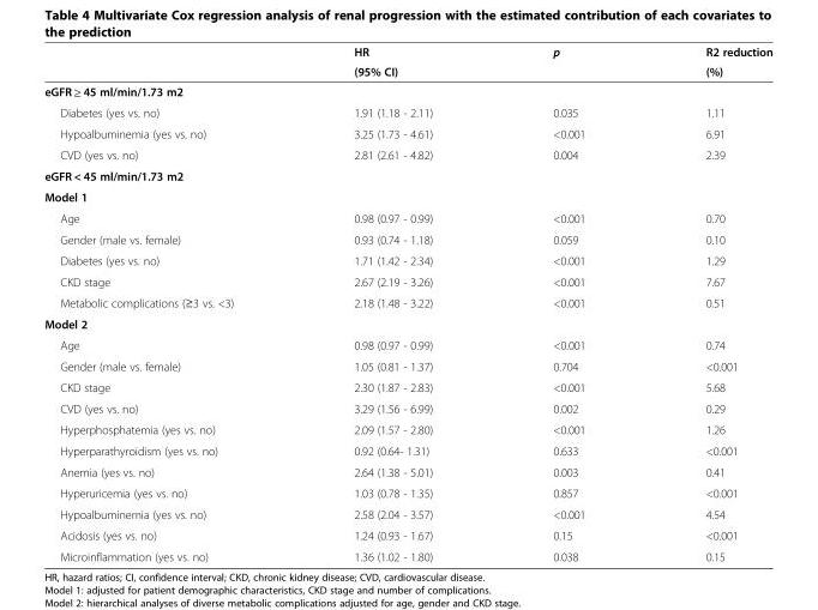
<table><thead><tr><td rowspan="2"></td><td rowspan="2">HR (95% CI)</td><td rowspan="2">p</td><td rowspan="2">R2 reduction (%)</td></tr><tr></tr></thead><tbody><tr><td colspan="4">eGFR ≥ 45 ml/min/1.73 m2</td></tr><tr><td>Diabetes (yes vs. no)</td><td>1.91 (1.18 - 2.11)</td><td>0.035</td><td>1.11</td></tr><tr><td>Hypoalbuminemia (yes vs. no)</td><td>3.25 (1.73 - 4.61)</td><td>&lt;0.001</td><td>6.91</td></tr><tr><td>CVD (yes vs. no)</td><td>2.81 (2.61 - 4.82)</td><td>0.004</td><td>2.39</td></tr><tr><td colspan="4">eGFR &lt; 45 ml/min/1.73 m2</td></tr><tr><td colspan="4">Model 1</td></tr><tr><td>Age</td><td>0.98 (0.97 - 0.99)</td><td>&lt;0.001</td><td>0.70</td></tr><tr><td>Gender (male vs. female)</td><td>0.93 (0.74 - 1.18)</td><td>0.059</td><td>0.10</td></tr><tr><td>Diabetes (yes vs. no)</td><td>1.71 (1.42 - 2.34)</td><td>&lt;0.001</td><td>1.29</td></tr><tr><td>CKD stage</td><td>2.67 (2.19 - 3.26)</td><td>&lt;0.001</td><td>7.67</td></tr><tr><td>Metabolic complications (≥3 vs. &lt;3)</td><td>2.18 (1.48 - 3.22)</td><td>&lt;0.001</td><td>0.51</td></tr><tr><td colspan="4">Model 2</td></tr><tr><td>Age</td><td>0.98 (0.97 - 0.99)</td><td>&lt;0.001</td><td>0.74</td></tr><tr><td>Gender (male vs. female)</td><td>1.05 (0.81 - 1.37)</td><td>0.704</td><td>&lt;0.001</td></tr><tr><td>CKD stage</td><td>2.30 (1.87 - 2.83)</td><td>&lt;0.001</td><td>5.68</td></tr><tr><td>CVD (yes vs. no)</td><td>3.29 (1.56 - 6.99)</td><td>0.002</td><td>0.29</td></tr><tr><td>Hyperphosphatemia (yes vs. no)</td><td>2.09 (1.57 - 2.80)</td><td>&lt;0.001</td><td>1.26</td></tr><tr><td>Hyperparathyroidism (yes vs. no)</td><td>0.92 (0.64- 1.31)</td><td>0.633</td><td>&lt;0.001</td></tr><tr><td>Anemia (yes vs. no)</td><td>2.64 (1.38 - 5.01)</td><td>0.003</td><td>0.41</td></tr><tr><td>Hyperuricemia (yes vs. no)</td><td>1.03 (0.78 - 1.35)</td><td>0.857</td><td>&lt;0.001</td></tr><tr><td>Hypoalbuminemia (yes vs. no)</td><td>2.58 (2.04 - 3.57)</td><td>&lt;0.001</td><td>4.54</td></tr><tr><td>Acidosis (yes vs. no)</td><td>1.24 (0.93 - 1.67)</td><td>0.15</td><td>&lt;0.001</td></tr><tr><td>Microinflammation (yes vs. no)</td><td>1.36 (1.02 - 1.80)</td><td>0.038</td><td>0.15</td></tr></tbody></table>